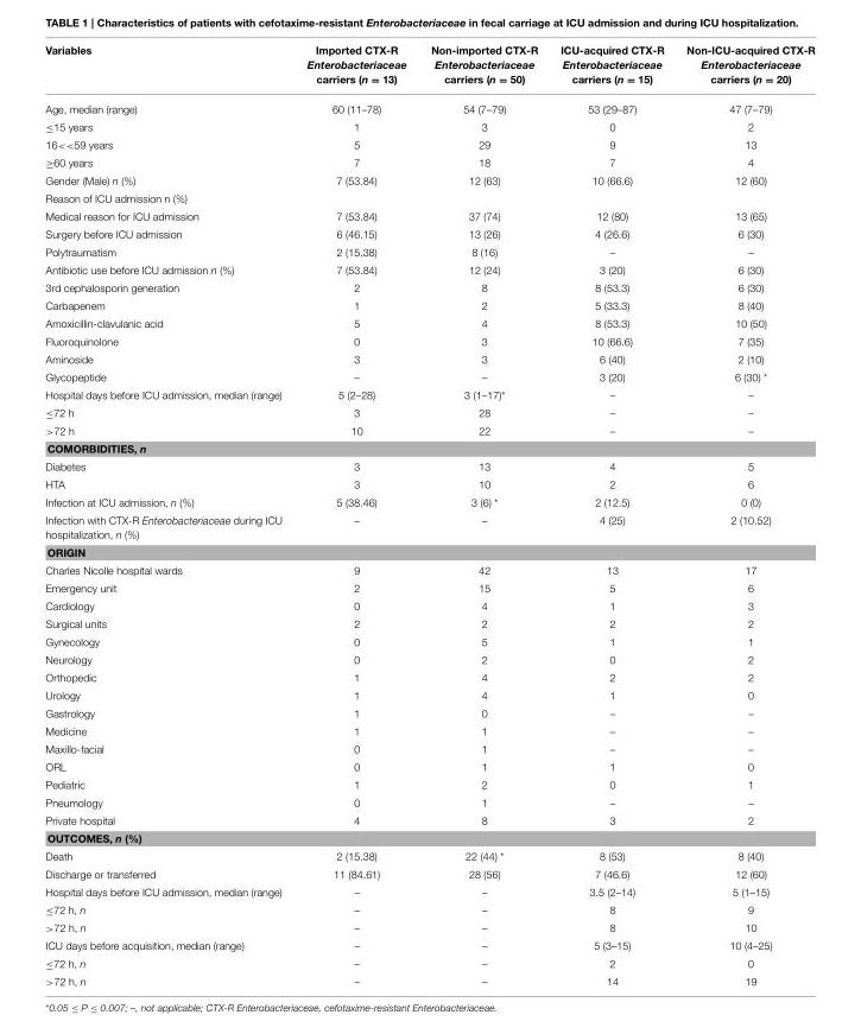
<table><thead><tr><td>Variables</td><td>Imported CTX-R Enterobacteriaceae carriers (n = 13)</td><td>Non-imported CTX-R Enterobacteriaceae carriers (n = 50)</td><td>ICU-acquired CTX-R Enterobacteriaceae carriers (n = 15)</td><td>Non-ICU-acquired CTX-R Enterobacteriaceae carriers (n = 20)</td></tr></thead><tbody><tr><td>Age, median (range)</td><td>60 (11–78)</td><td>54 (7–79)</td><td>53 (29–87)</td><td>47 (7–79)</td></tr><tr><td>≤15 years</td><td>1</td><td>3</td><td>0</td><td>2</td></tr><tr><td>16&lt;&lt;59 years</td><td>5</td><td>29</td><td>9</td><td>13</td></tr><tr><td>≥60 years</td><td>7</td><td>18</td><td>7</td><td>4</td></tr><tr><td>Gender (Male) n (%)</td><td>7 (53.84)</td><td>12 (63)</td><td>10 (66.6)</td><td>12 (60)</td></tr><tr><td colspan="5">Reason of ICU admission n (%)</td></tr><tr><td>Medical reason for ICU admission</td><td>7 (53.84)</td><td>37 (74)</td><td>12 (80)</td><td>13 (65)</td></tr><tr><td>Surgery before ICU admission</td><td>6 (46.15)</td><td>13 (26)</td><td>4 (26.6)</td><td>6 (30)</td></tr><tr><td>Polytraumatism</td><td>2 (15.38)</td><td>8 (16)</td><td>–</td><td>–</td></tr><tr><td>Antibiotic use before ICU admission n (%)</td><td>7 (53.84)</td><td>12 (24)</td><td>3 (20)</td><td>6 (30)</td></tr><tr><td>3rd cephalosporin generation</td><td>2</td><td>8</td><td>8 (53.3)</td><td>6 (30)</td></tr><tr><td>Carbapenem</td><td>1</td><td>2</td><td>5 (33.3)</td><td>8 (40)</td></tr><tr><td>Amoxicillin-clavulanic acid</td><td>5</td><td>4</td><td>8 (53.3)</td><td>10 (50)</td></tr><tr><td>Fluoroquinolone</td><td>0</td><td>3</td><td>10 (66.6)</td><td>7 (35)</td></tr><tr><td>Aminoside</td><td>3</td><td>3</td><td>6 (40)</td><td>2 (10)</td></tr><tr><td>Glycopeptide</td><td>–</td><td>–</td><td>3 (20)</td><td>6 (30) *</td></tr><tr><td>Hospital days before ICU admission, median (range)</td><td>5 (2–28)</td><td>3 (1–17)*</td><td>–</td><td>–</td></tr><tr><td>≤72 h</td><td>3</td><td>28</td><td>–</td><td>–</td></tr><tr><td>&gt;72 h</td><td>10</td><td>22</td><td>–</td><td>–</td></tr><tr><td colspan="5">COMORBIDITIES, n</td></tr><tr><td>Diabetes</td><td>3</td><td>13</td><td>4</td><td>5</td></tr><tr><td>HTA</td><td>3</td><td>10</td><td>2</td><td>6</td></tr><tr><td>Infection at ICU admission, n (%)</td><td>5 (38.46)</td><td>3 (6) *</td><td>2 (12.5)</td><td>0 (0)</td></tr><tr><td>Infection with CTX-R Enterobacteriaceae during ICU hospitalization, n (%)</td><td>–</td><td>–</td><td>4 (25)</td><td>2 (10.52)</td></tr><tr><td colspan="5">ORIGIN</td></tr><tr><td>Charles Nicolle hospital wards</td><td>9</td><td>42</td><td>13</td><td>17</td></tr><tr><td>Emergency unit</td><td>2</td><td>15</td><td>5</td><td>6</td></tr><tr><td>Cardiology</td><td>0</td><td>4</td><td>1</td><td>3</td></tr><tr><td>Surgical units</td><td>2</td><td>2</td><td>2</td><td>2</td></tr><tr><td>Gynecology</td><td>0</td><td>5</td><td>1</td><td>1</td></tr><tr><td>Neurology</td><td>0</td><td>2</td><td>0</td><td>2</td></tr><tr><td>Orthopedic</td><td>1</td><td>4</td><td>2</td><td>2</td></tr><tr><td>Urology</td><td>1</td><td>4</td><td>1</td><td>0</td></tr><tr><td>Gastrology</td><td>1</td><td>0</td><td>–</td><td>–</td></tr><tr><td>Medicine</td><td>1</td><td>1</td><td>–</td><td>–</td></tr><tr><td>Maxillo-facial</td><td>0</td><td>1</td><td>–</td><td>–</td></tr><tr><td>ORL</td><td>0</td><td>1</td><td>1</td><td>0</td></tr><tr><td>Pediatric</td><td>1</td><td>2</td><td>0</td><td>1</td></tr><tr><td>Pneumology</td><td>0</td><td>1</td><td>–</td><td>–</td></tr><tr><td>Private hospital</td><td>4</td><td>8</td><td>3</td><td>2</td></tr><tr><td colspan="5">OUTCOMES, n (%)</td></tr><tr><td>Death</td><td>2 (15.38)</td><td>22 (44) *</td><td>8 (53)</td><td>8 (40)</td></tr><tr><td>Discharge or transferred</td><td>11 (84.61)</td><td>28 (56)</td><td>7 (46.6)</td><td>12 (60)</td></tr><tr><td>Hospital days before ICU admission, median (range)</td><td>–</td><td>–</td><td>3.5 (2–14)</td><td>5 (1–15)</td></tr><tr><td>≤72 h, n</td><td>–</td><td>–</td><td>8</td><td>9</td></tr><tr><td>&gt;72 h, n</td><td>–</td><td>–</td><td>8</td><td>10</td></tr><tr><td>ICU days before acquisition, median (range)</td><td>–</td><td>–</td><td>5 (3–15)</td><td>10 (4–25)</td></tr><tr><td>≤72 h, n</td><td>–</td><td>–</td><td>2</td><td>0</td></tr><tr><td>&gt;72 h, n</td><td>–</td><td>–</td><td>14</td><td>19</td></tr></tbody></table>